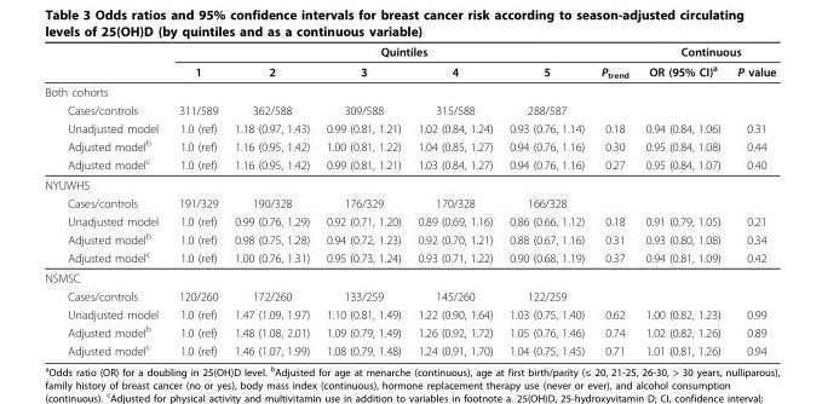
<table><thead><tr><td rowspan="2"></td><td colspan="6">Quintiles</td><td colspan="2">Continuous</td></tr><tr><td>1</td><td>2</td><td>3</td><td>4</td><td>5</td><td>P<sub>trend</sub></td><td>OR (95% CI)<sup>a</sup></td><td>P value</td></tr></thead><tbody><tr><td colspan="9">Both cohorts</td></tr><tr><td>Cases/controls</td><td>311/589</td><td>362/588</td><td>309/588</td><td>315/588</td><td>288/587</td><td></td><td></td><td></td></tr><tr><td>Unadjusted model</td><td>1.0 (ref)</td><td>1.18 (0.97, 1.43)</td><td>0.99 (0.81, 1.21)</td><td>1.02 (0.84, 1.24)</td><td>0.93 (0.76, 1.14)</td><td>0.18</td><td>0.94 (0.84, 1.06)</td><td>0.31</td></tr><tr><td>Adjusted model<sup>b</sup></td><td>1.0 (ref)</td><td>1.16 (0.95, 1.42)</td><td>1.00 (0.81, 1.22)</td><td>1.04 (0.85, 1.27)</td><td>0.94 (0.76, 1.16)</td><td>0.30</td><td>0.95 (0.84, 1.08)</td><td>0.44</td></tr><tr><td>Adjusted model<sup>c</sup></td><td>1.0 (ref)</td><td>1.16 (0.95, 1.42)</td><td>0.99 (0.81, 1.21)</td><td>1.03 (0.84, 1.27)</td><td>0.94 (0.76, 1.16)</td><td>0.27</td><td>0.95 (0.84, 1.07)</td><td>0.40</td></tr><tr><td colspan="9">NYUWHS</td></tr><tr><td>Cases/controls</td><td>191/329</td><td>190/328</td><td>176/329</td><td>170/328</td><td>166/328</td><td></td><td></td><td></td></tr><tr><td>Unadjusted model</td><td>1.0 (ref)</td><td>0.99 (0.76, 1.29)</td><td>0.92 (0.71, 1.20)</td><td>0.89 (0.69, 1.16)</td><td>0.86 (0.66, 1.12)</td><td>0.18</td><td>0.91 (0.79, 1.05)</td><td>0.21</td></tr><tr><td>Adjusted model<sup>b</sup></td><td>1.0 (ref)</td><td>0.98 (0.75, 1.28)</td><td>0.94 (0.72, 1.23)</td><td>0.92 (0.70, 1.21)</td><td>0.88 (0.67, 1.16)</td><td>0.31</td><td>0.93 (0.80, 1.08)</td><td>0.34</td></tr><tr><td>Adjusted model<sup>c</sup></td><td>1.0 (ref)</td><td>1.00 (0.76, 1.31)</td><td>0.95 (0.73, 1.24)</td><td>0.93 (0.71, 1.22)</td><td>0.90 (0.68, 1.19)</td><td>0.37</td><td>0.94 (0.81, 1.09)</td><td>0.42</td></tr><tr><td colspan="9">NSMSC</td></tr><tr><td>Cases/controls</td><td>120/260</td><td>172/260</td><td>133/259</td><td>145/260</td><td>122/259</td><td></td><td></td><td></td></tr><tr><td>Unadjusted model</td><td>1.0 (ref)</td><td>1.47 (1.09, 1.97)</td><td>1.10 (0.81, 1.49)</td><td>1.22 (0.90, 1.64)</td><td>1.03 (0.75, 1.40)</td><td>0.62</td><td>1.00 (0.82, 1.23)</td><td>0.99</td></tr><tr><td>Adjusted model<sup>b</sup></td><td>1.0 (ref)</td><td>1.48 (1.08, 2.01)</td><td>1.09 (0.79, 1.49)</td><td>1.26 (0.92, 1.72)</td><td>1.05 (0.76, 1.46)</td><td>0.74</td><td>1.02 (0.82, 1.26)</td><td>0.89</td></tr><tr><td>Adjusted model<sup>c</sup></td><td>1.0 (ref)</td><td>1.46 (1.07, 1.99)</td><td>1.08 (0.79, 1.48)</td><td>1.24 (0.91, 1.70)</td><td>1.04 (0.75, 1.45)</td><td>0.71</td><td>1.01 (0.81, 1.26)</td><td>0.94</td></tr></tbody></table>